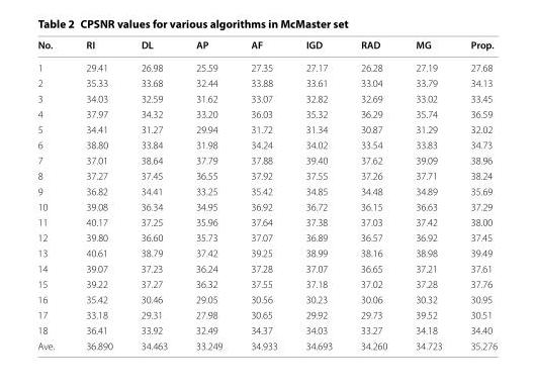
<table><thead><tr><td>No.</td><td>RI</td><td>DL</td><td>AP</td><td>AF</td><td>IGD</td><td>RAD</td><td>MG</td><td>Prop.</td></tr></thead><tbody><tr><td>1</td><td>29.41</td><td>26.98</td><td>25.59</td><td>27.35</td><td>27.17</td><td>26.28</td><td>27.19</td><td>27.68</td></tr><tr><td>2</td><td>35.33</td><td>33.68</td><td>32.44</td><td>33.88</td><td>33.61</td><td>33.04</td><td>33.79</td><td>34.13</td></tr><tr><td>3</td><td>34.03</td><td>32.59</td><td>31.62</td><td>33.07</td><td>32.82</td><td>32.69</td><td>33.02</td><td>33.45</td></tr><tr><td>4</td><td>37.97</td><td>34.32</td><td>33.20</td><td>36.03</td><td>35.32</td><td>36.29</td><td>35.74</td><td>36.59</td></tr><tr><td>5</td><td>34.41</td><td>31.27</td><td>29.94</td><td>31.72</td><td>31.34</td><td>30.87</td><td>31.29</td><td>32.02</td></tr><tr><td>6</td><td>38.80</td><td>33.84</td><td>31.98</td><td>34.24</td><td>34.02</td><td>33.54</td><td>33.83</td><td>34.73</td></tr><tr><td>7</td><td>37.01</td><td>38.64</td><td>37.79</td><td>37.88</td><td>39.40</td><td>37.62</td><td>39.09</td><td>38.96</td></tr><tr><td>8</td><td>37.27</td><td>37.45</td><td>36.55</td><td>37.92</td><td>37.55</td><td>37.26</td><td>37.71</td><td>38.24</td></tr><tr><td>9</td><td>36.82</td><td>34.41</td><td>33.25</td><td>35.42</td><td>34.85</td><td>34.48</td><td>34.89</td><td>35.69</td></tr><tr><td>10</td><td>39.08</td><td>36.34</td><td>34.95</td><td>36.92</td><td>36.72</td><td>36.15</td><td>36.63</td><td>37.29</td></tr><tr><td>11</td><td>40.17</td><td>37.25</td><td>35.96</td><td>37.64</td><td>37.38</td><td>37.03</td><td>37.42</td><td>38.00</td></tr><tr><td>12</td><td>39.80</td><td>36.60</td><td>35.73</td><td>37.07</td><td>36.89</td><td>36.57</td><td>36.92</td><td>37.45</td></tr><tr><td>13</td><td>40.61</td><td>38.79</td><td>37.42</td><td>39.25</td><td>38.99</td><td>38.16</td><td>38.98</td><td>39.49</td></tr><tr><td>14</td><td>39.07</td><td>37.23</td><td>36.24</td><td>37.28</td><td>37.07</td><td>36.65</td><td>37.21</td><td>37.61</td></tr><tr><td>15</td><td>39.22</td><td>37.27</td><td>36.32</td><td>37.55</td><td>37.18</td><td>37.02</td><td>37.28</td><td>37.76</td></tr><tr><td>16</td><td>35.42</td><td>30.46</td><td>29.05</td><td>30.56</td><td>30.23</td><td>30.06</td><td>30.32</td><td>30.95</td></tr><tr><td>17</td><td>33.18</td><td>29.31</td><td>27.98</td><td>30.65</td><td>29.92</td><td>29.73</td><td>39.52</td><td>30.51</td></tr><tr><td>18</td><td>36.41</td><td>33.92</td><td>32.49</td><td>34.37</td><td>34.03</td><td>33.27</td><td>34.18</td><td>34.40</td></tr><tr><td>Ave.</td><td>36.890</td><td>34.463</td><td>33.249</td><td>34.933</td><td>34.693</td><td>34.260</td><td>34.723</td><td>35.276</td></tr></tbody></table>